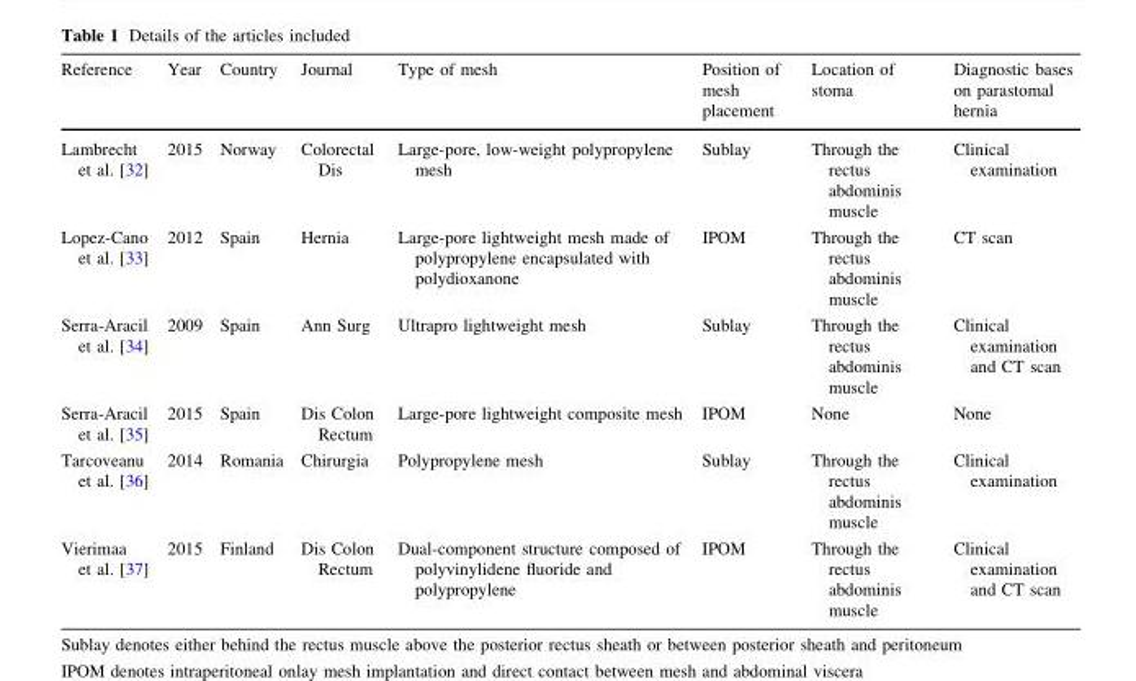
<table><thead><tr><td>Reference</td><td>Year</td><td>Country</td><td>Journal</td><td>Type of mesh</td><td>Position of mesh placement</td><td>Location of stoma</td><td>Diagnostic bases on parastomal hernia</td></tr></thead><tbody><tr><td>Lambrecht et al. [32]</td><td>2015</td><td>Norway</td><td>Colorectal Dis</td><td>Large-pore, low-weight polypropylene mesh</td><td>Sublay</td><td>Through the rectus abdominis muscle</td><td>Clinical examination</td></tr><tr><td>Lopez-Cano et al. [33]</td><td>2012</td><td>Spain</td><td>Hernia</td><td>Large-pore lightweight mesh made of polypropylene encapsulated with polydioxanone</td><td>IPOM</td><td>Through the rectus abdominis muscle</td><td>CT scan</td></tr><tr><td>Serra-Aracil et al. [34]</td><td>2009</td><td>Spain</td><td>Ann Surg</td><td>Ultrapro lightweight mesh</td><td>Sublay</td><td>Through the rectus abdominis muscle</td><td>Clinical examination and CT scan</td></tr><tr><td>Serra-Aracil et al. [35]</td><td>2015</td><td>Spain</td><td>Dis Colon Rectum</td><td>Large-pore lightweight composite mesh</td><td>IPOM</td><td>None</td><td>None</td></tr><tr><td>Tarcoveanu et al. [36]</td><td>2014</td><td>Romania</td><td>Chirurgia</td><td>Polypropylene mesh</td><td>Sublay</td><td>Through the rectus abdominis muscle</td><td>Clinical examination</td></tr><tr><td>Vierimaa et al. [37]</td><td>2015</td><td>Finland</td><td>Dis Colon Rectum</td><td>Dual-component structure composed of polyvinylidene fluoride and polypropylene</td><td>IPOM</td><td>Through the rectus abdominis muscle</td><td>Clinical examination and CT scan</td></tr></tbody></table>